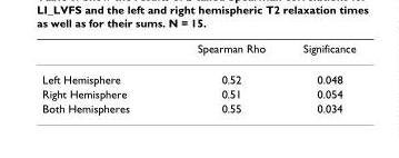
<table><thead><tr><td></td><td>Spearman Rho</td><td>Significance</td></tr></thead><tbody><tr><td>Left Hemisphere</td><td>0.52</td><td>0.048</td></tr><tr><td>Right Hemisphere</td><td>0.51</td><td>0.054</td></tr><tr><td>Both Hemispheres</td><td>0.55</td><td>0.034</td></tr></tbody></table>